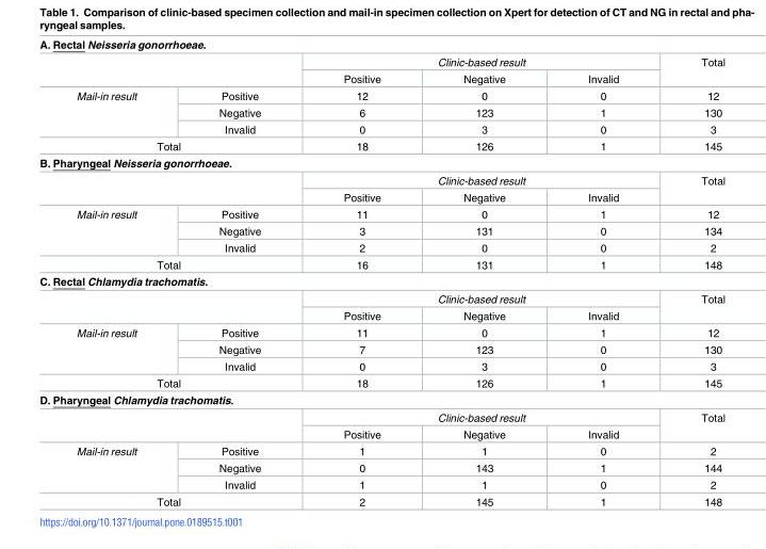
<table><tbody><tr><td colspan="6">A. Rectal Neisseria gonorrhoeae.</td></tr><tr><td rowspan="2" colspan="2"></td><td colspan="3">Clinic-based result</td><td rowspan="2">Total</td></tr><tr><td>Positive</td><td>Negative</td><td>Invalid</td></tr><tr><td rowspan="3">Mail-in result</td><td>Positive</td><td>12</td><td>0</td><td>0</td><td>12</td></tr><tr><td>Negative</td><td>6</td><td>123</td><td>1</td><td>130</td></tr><tr><td>Invalid</td><td>0</td><td>3</td><td>0</td><td>3</td></tr><tr><td colspan="2">Total</td><td>18</td><td>126</td><td>1</td><td>145</td></tr><tr><td colspan="6">B. Pharyngeal Neisseria gonorrhoeae.</td></tr><tr><td rowspan="2" colspan="2"></td><td colspan="3">Clinic-based result</td><td rowspan="2">Total</td></tr><tr><td>Positive</td><td>Negative</td><td>Invalid</td></tr><tr><td rowspan="3">Mail-in result</td><td>Positive</td><td>11</td><td>0</td><td>1</td><td>12</td></tr><tr><td>Negative</td><td>3</td><td>131</td><td>0</td><td>134</td></tr><tr><td>Invalid</td><td>2</td><td>0</td><td>0</td><td>2</td></tr><tr><td colspan="2">Total</td><td>16</td><td>131</td><td>1</td><td>148</td></tr><tr><td colspan="6">C. Rectal Chlamydia trachomatis.</td></tr><tr><td rowspan="2" colspan="2"></td><td colspan="3">Clinic-based result</td><td rowspan="2">Total</td></tr><tr><td>Positive</td><td>Negative</td><td>Invalid</td></tr><tr><td rowspan="3">Mail-in result</td><td>Positive</td><td>11</td><td>0</td><td>1</td><td>12</td></tr><tr><td>Negative</td><td>7</td><td>123</td><td>0</td><td>130</td></tr><tr><td>Invalid</td><td>0</td><td>3</td><td>0</td><td>3</td></tr><tr><td colspan="2">Total</td><td>18</td><td>126</td><td>1</td><td>145</td></tr><tr><td colspan="6">D. Pharyngeal Chlamydia trachomatis.</td></tr><tr><td rowspan="2" colspan="2"></td><td colspan="3">Clinic-based result</td><td rowspan="2">Total</td></tr><tr><td>Positive</td><td>Negative</td><td>Invalid</td></tr><tr><td rowspan="3">Mail-in result</td><td>Positive</td><td>1</td><td>1</td><td>0</td><td>2</td></tr><tr><td>Negative</td><td>0</td><td>143</td><td>1</td><td>144</td></tr><tr><td>Invalid</td><td>1</td><td>1</td><td>0</td><td>2</td></tr><tr><td colspan="2">Total</td><td>2</td><td>145</td><td>1</td><td>148</td></tr></tbody></table>